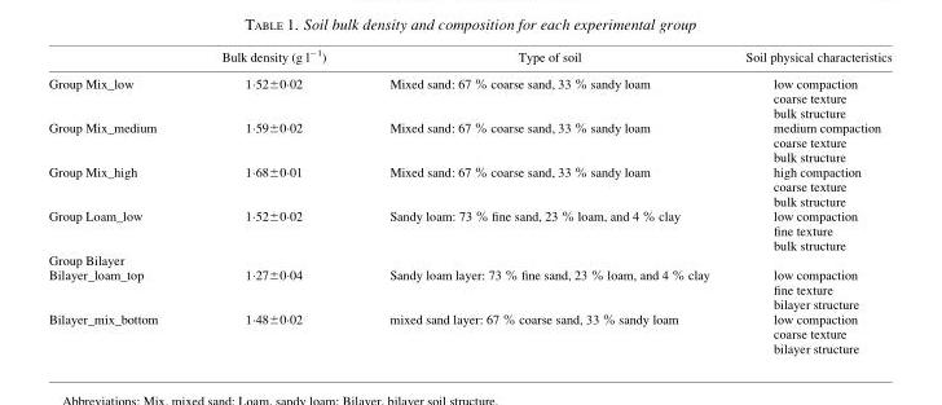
<table><thead><tr><td></td><td>Bulk density (g l<sup>−1</sup>)</td><td>Type of soil</td><td>Soil physical characteristics</td></tr></thead><tbody><tr><td>Group Mix_low</td><td>1·52±0·02</td><td>Mixed sand: 67 % coarse sand, 33 % sandy loam</td><td>low compaction coarse texture bulk structure</td></tr><tr><td>Group Mix_medium</td><td>1·59±0·02</td><td>Mixed sand: 67 % coarse sand, 33 % sandy loam</td><td>medium compaction coarse texture bulk structure</td></tr><tr><td>Group Mix_high</td><td>1·68±0·01</td><td>Mixed sand: 67 % coarse sand, 33 % sandy loam</td><td>high compaction coarse texture bulk structure</td></tr><tr><td>Group Loam_low</td><td>1·52±0·02</td><td>Sandy loam: 73 % fine sand, 23 % loam, and 4 % clay</td><td>low compaction fine texture bulk structure</td></tr><tr><td colspan="4">Group Bilayer</td></tr><tr><td>Bilayer_loam_top</td><td>1·27±0·04</td><td>Sandy loam layer: 73 % fine sand, 23 % loam, and 4 % clay</td><td>low compaction fine texture bilayer structure</td></tr><tr><td>Bilayer_mix_bottom</td><td>1·48±0·02</td><td>mixed sand layer: 67 % coarse sand, 33 % sandy loam</td><td>low compaction coarse texture bilayer structure</td></tr></tbody></table>